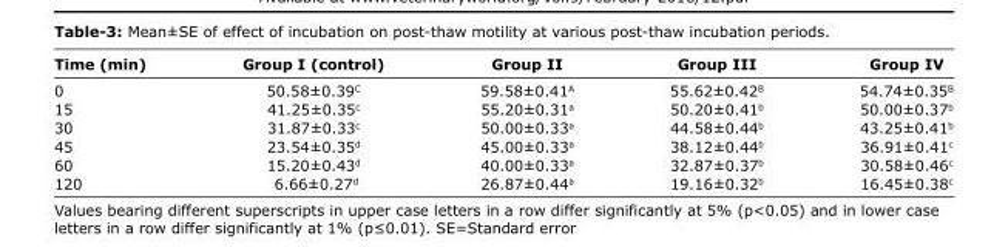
<table><thead><tr><td>Time (min)</td><td>Group I (control)</td><td>Group II</td><td>Group III</td><td>Group IV</td></tr></thead><tbody><tr><td>0</td><td>50.58±0.39<sup>C</sup></td><td>59.58±0.41<sup>A</sup></td><td>55.62±0.42<sup>B</sup></td><td>54.74±0.35<sup>B</sup></td></tr><tr><td>15</td><td>41.25±0.35<sup>c</sup></td><td>55.20±0.31<sup>a</sup></td><td>50.20±0.41<sup>b</sup></td><td>50.00±0.37<sup>b</sup></td></tr><tr><td>30</td><td>31.87±0.33<sup>c</sup></td><td>50.00±0.33<sup>a</sup></td><td>44.58±0.44<sup>b</sup></td><td>43.25±0.41<sup>b</sup></td></tr><tr><td>45</td><td>23.54±0.35<sup>d</sup></td><td>45.00±0.33<sup>a</sup></td><td>38.12±0.44<sup>b</sup></td><td>36.91±0.41<sup>c</sup></td></tr><tr><td>60</td><td>15.20±0.43<sup>d</sup></td><td>40.00±0.33<sup>a</sup></td><td>32.87±0.37<sup>b</sup></td><td>30.58±0.46<sup>c</sup></td></tr><tr><td>120</td><td>6.66±0.27<sup>d</sup></td><td>26.87±0.44<sup>a</sup></td><td>19.16±0.32<sup>b</sup></td><td>16.45±0.38<sup>c</sup></td></tr></tbody></table>